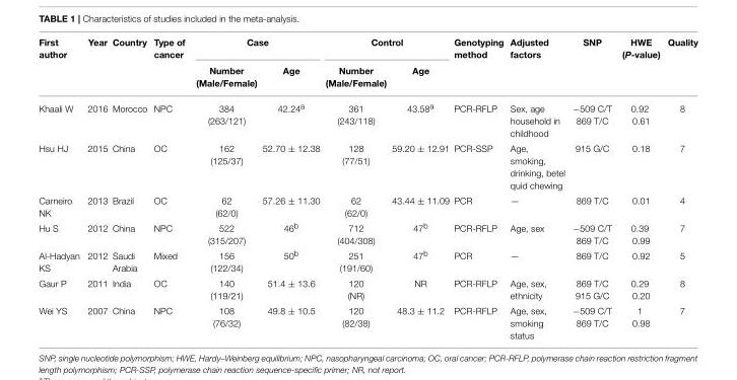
<table><thead><tr><td rowspan="2">First author</td><td rowspan="2">Year</td><td rowspan="2">Country</td><td rowspan="2">Type of cancer</td><td colspan="2">Case</td><td colspan="2">Control</td><td rowspan="2">Genotyping method</td><td rowspan="2">Adjusted factors</td><td rowspan="2">SNP</td><td rowspan="2">HWE (P-value)</td><td rowspan="2">Quality</td></tr><tr><td>Number (Male/Female)</td><td>Age</td><td>Number (Male/Female)</td><td>Age</td></tr></thead><tbody><tr><td>Khaali W</td><td>2016</td><td>Morocco</td><td>NPC</td><td>384 (263/121)</td><td>42.24<sup>a</sup></td><td>361 (243/118)</td><td>43.58<sup>a</sup></td><td>PCR-RFLP</td><td>Sex, age household in childhood</td><td>−509 C/T 869 T/C</td><td>0.92 0.61</td><td>8</td></tr><tr><td>Hsu HJ</td><td>2015</td><td>China</td><td>OC</td><td>162 (125/37)</td><td>52.70 ± 12.38</td><td>128 (77/51)</td><td>59.20 ± 12.91</td><td>PCR-SSP</td><td>Age, smoking, drinking, betel quid chewing</td><td>915 G/C</td><td>0.18</td><td>7</td></tr><tr><td>Carneiro NK</td><td>2013</td><td>Brazil</td><td>OC</td><td>62 (62/0)</td><td>57.26 ± 11.30</td><td>62 (62/0)</td><td>43.44 ± 11.09</td><td>PCR</td><td>—</td><td>869 T/C</td><td>0.01</td><td>4</td></tr><tr><td>Hu S</td><td>2012</td><td>China</td><td>NPC</td><td>522 (315/207)</td><td>46<sup>b</sup></td><td>712 (404/308)</td><td>47<sup>b</sup></td><td>PCR-RFLP</td><td>Age, sex</td><td>−509 C/T 869 T/C</td><td>0.39 0.99</td><td>7</td></tr><tr><td>Al-Hadyan KS</td><td>2012</td><td>Saudi Arabia</td><td>Mixed</td><td>156 (122/34)</td><td>50<sup>b</sup></td><td>251 (191/60)</td><td>47<sup>b</sup></td><td>PCR</td><td>—</td><td>869 T/C</td><td>0.92</td><td>5</td></tr><tr><td>Gaur P</td><td>2011</td><td>India</td><td>OC</td><td>140 (119/21)</td><td>51.4 ± 13.6</td><td>120 (NR)</td><td>NR</td><td>PCR-RFLP</td><td>Age, sex, ethnicity</td><td>869 T/C 915 G/C</td><td>0.29 0.20</td><td>8</td></tr><tr><td>Wei YS</td><td>2007</td><td>China</td><td>NPC</td><td>108 (76/32)</td><td>49.8 ± 10.5</td><td>120 (82/38)</td><td>48.3 ± 11.2</td><td>PCR-RFLP</td><td>Age, sex, smoking status</td><td>−509 C/T 869 T/C</td><td>1 0.98</td><td>7</td></tr></tbody></table>